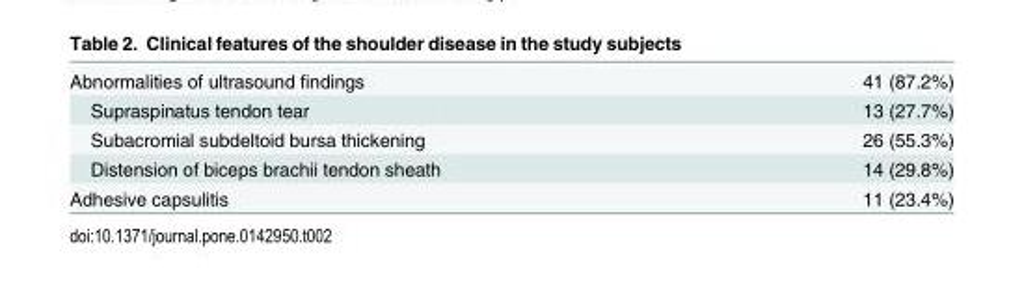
<table><tbody><tr><td>Abnormalities of ultrasound findings</td><td>41 (87.2%)</td></tr><tr><td>Supraspinatus tendon tear</td><td>13 (27.7%)</td></tr><tr><td>Subacromial subdeltoid bursa thickening</td><td>26 (55.3%)</td></tr><tr><td>Distension of biceps brachii tendon sheath</td><td>14 (29.8%)</td></tr><tr><td>Adhesive capsulitis</td><td>11 (23.4%)</td></tr></tbody></table>